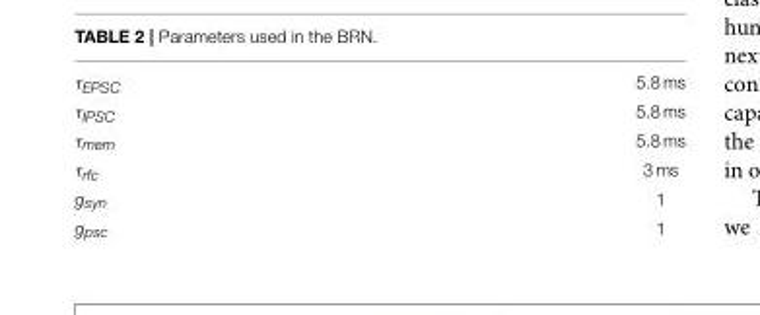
<table><tbody><tr><td>τEPSC</td><td>5.8 ms</td></tr><tr><td>τIPSC</td><td>5.8 ms</td></tr><tr><td>τmem</td><td>5.8 ms</td></tr><tr><td>τrfc</td><td>3 ms</td></tr><tr><td>gsyn</td><td>1</td></tr><tr><td>gpsc</td><td>1</td></tr></tbody></table>